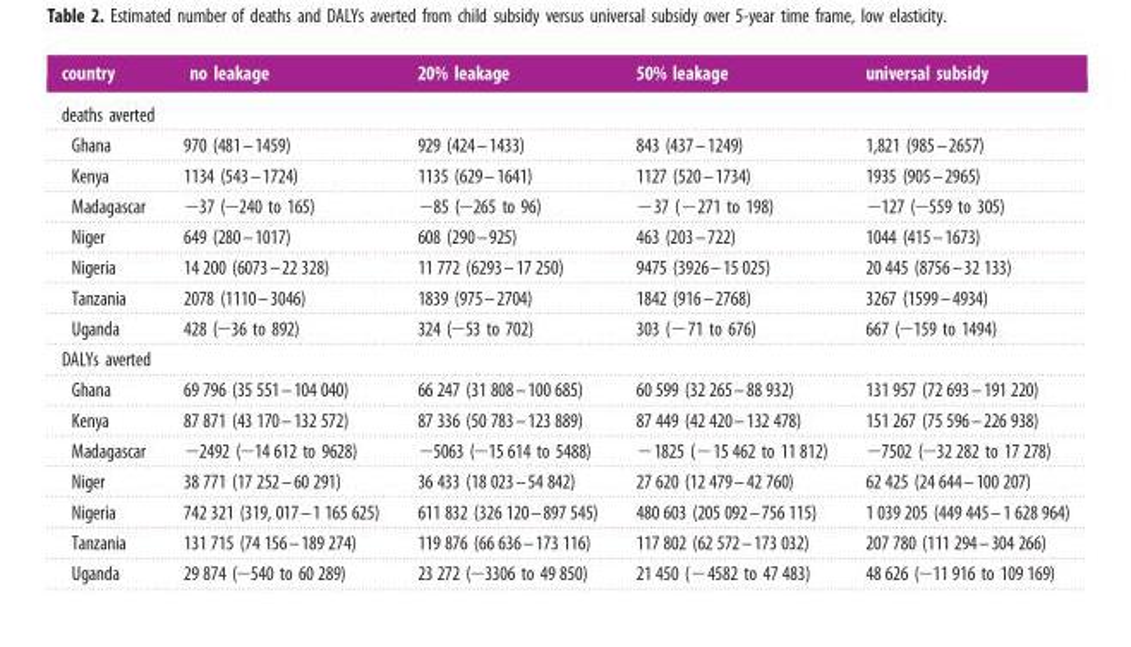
<table><thead><tr><td>country</td><td>no leakage</td><td>20% leakage</td><td>50% leakage</td><td>universal subsidy</td></tr></thead><tbody><tr><td colspan="5">deaths averted</td></tr><tr><td>Ghana</td><td>970 (481–1459)</td><td>929 (424–1433)</td><td>843 (437–1249)</td><td>1,821 (985–2657)</td></tr><tr><td>Kenya</td><td>1134 (543–1724)</td><td>1135 (629–1641)</td><td>1127 (520–1734)</td><td>1935 (905–2965)</td></tr><tr><td>Madagascar</td><td>−37 (−240 to 165)</td><td>−85 (−265 to 96)</td><td>−37 (−271 to 198)</td><td>−127 (−559 to 305)</td></tr><tr><td>Niger</td><td>649 (280–1017)</td><td>608 (290–925)</td><td>463 (203–722)</td><td>1044 (415–1673)</td></tr><tr><td>Nigeria</td><td>14 200 (6073–22 328)</td><td>11 772 (6293–17 250)</td><td>9475 (3926–15 025)</td><td>20 445 (8756–32 133)</td></tr><tr><td>Tanzania</td><td>2078 (1110–3046)</td><td>1839 (975–2704)</td><td>1842 (916–2768)</td><td>3267 (1599–4934)</td></tr><tr><td>Uganda</td><td>428 (−36 to 892)</td><td>324 (−53 to 702)</td><td>303 (−71 to 676)</td><td>667 (−159 to 1494)</td></tr><tr><td colspan="5">DALYs averted</td></tr><tr><td>Ghana</td><td>69 796 (35 551–104 040)</td><td>66 247 (31 808–100 685)</td><td>60 599 (32 265–88 932)</td><td>131 957 (72 693–191 220)</td></tr><tr><td>Kenya</td><td>87 871 (43 170–132 572)</td><td>87 336 (50 783–123 889)</td><td>87 449 (42 420–132 478)</td><td>151 267 (75 596–226 938)</td></tr><tr><td>Madagascar</td><td>−2492 (−14 612 to 9628)</td><td>−5063 (−15 614 to 5488)</td><td>−1825 (−15 462 to 11 812)</td><td>−7502 (−32 282 to 17 278)</td></tr><tr><td>Niger</td><td>38 771 (17 252–60 291)</td><td>36 433 (18 023–54 842)</td><td>27 620 (12 479–42 760)</td><td>62 425 (24 644–100 207)</td></tr><tr><td>Nigeria</td><td>742 321 (319, 017–1 165 625)</td><td>611 832 (326 120–897 545)</td><td>480 603 (205 092–756 115)</td><td>1 039 205 (449 445–1 628 964)</td></tr><tr><td>Tanzania</td><td>131 715 (74 156–189 274)</td><td>119 876 (66 636–173 116)</td><td>117 802 (62 572–173 032)</td><td>207 780 (111 294–304 266)</td></tr><tr><td>Uganda</td><td>29 874 (−540 to 60 289)</td><td>23 272 (−3306 to 49 850)</td><td>21 450 (−4582 to 47 483)</td><td>48 626 (−11 916 to 109 169)</td></tr></tbody></table>